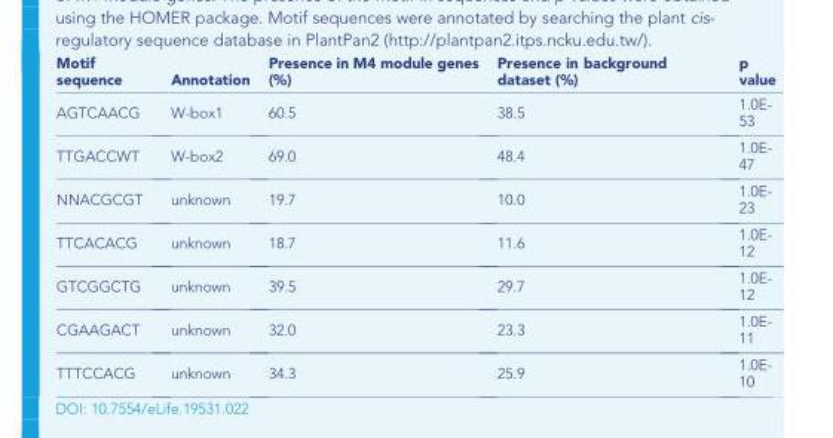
<table><thead><tr><td>Motif sequence</td><td>Annotation</td><td>Presence in M4 module genes (%)</td><td>Presence in background dataset (%)</td><td>p value</td></tr></thead><tbody><tr><td>AGTCAACG</td><td>W-box1</td><td>60.5</td><td>38.5</td><td>1.0E- 53</td></tr><tr><td>TTGACCWT</td><td>W-box2</td><td>69.0</td><td>48.4</td><td>1.0E- 47</td></tr><tr><td>NNACGCGT</td><td>unknown</td><td>19.7</td><td>10.0</td><td>1.0E- 23</td></tr><tr><td>TTCACACG</td><td>unknown</td><td>18.7</td><td>11.6</td><td>1.0E- 12</td></tr><tr><td>GTCGGCTG</td><td>unknown</td><td>39.5</td><td>29.7</td><td>1.0E- 12</td></tr><tr><td>CGAAGACT</td><td>unknown</td><td>32.0</td><td>23.3</td><td>1.0E- 11</td></tr><tr><td>TTTCCACG</td><td>unknown</td><td>34.3</td><td>25.9</td><td>1.0E-</td></tr></tbody></table>